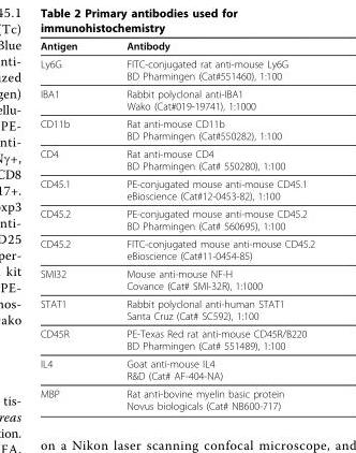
<table><thead><tr><td>Antigen</td><td>Antibody</td></tr></thead><tbody><tr><td>Ly6G</td><td>FITC-conjugated rat anti-mouse Ly6G BD Pharmingen (Cat#551460), 1:100</td></tr><tr><td>IBA1</td><td>Rabbit polyclonal anti-IBA1 Wako (Cat#019-19741), 1:1000</td></tr><tr><td>CD11b</td><td>Rat anti-mouse CD11b BD Pharmingen (Cat#550282), 1:100</td></tr><tr><td>CD4</td><td>Rat anti-mouse CD4 BD Pharmingen (Cat# 550280), 1:100</td></tr><tr><td>CD45.1</td><td>PE-conjugated mouse anti-mouse CD45.1 eBioscience (Cat#12-0453-82), 1:100</td></tr><tr><td>CD45.2</td><td>PE-conjugated mouse anti-mouse CD45.2 BD Pharmingen (Cat# 560695), 1:100</td></tr><tr><td>CD45.2</td><td>FITC-conjugated mouse anti-mouse CD45.2 eBioscience (Cat#11-0454-85)</td></tr><tr><td>SMI32</td><td>Mouse anti-mouse NF-H Covance (Cat# SMI-32R), 1:1000</td></tr><tr><td>STAT1</td><td>Rabbit polyclonal anti-human STAT1 Santa Cruz (Cat# SC592), 1:100</td></tr><tr><td>CD45R</td><td>PE-Texas Red rat anti-mouse CD45R/B220 BD Pharmingen (Cat# 551489), 1:100</td></tr><tr><td>IL4</td><td>Goat anti-mouse IL4 R&amp;D (Cat# AF-404-NA)</td></tr><tr><td>MBP</td><td>Rat anti-bovine myelin basic protein Novus biologicals (Cat# NB600-717)</td></tr></tbody></table>